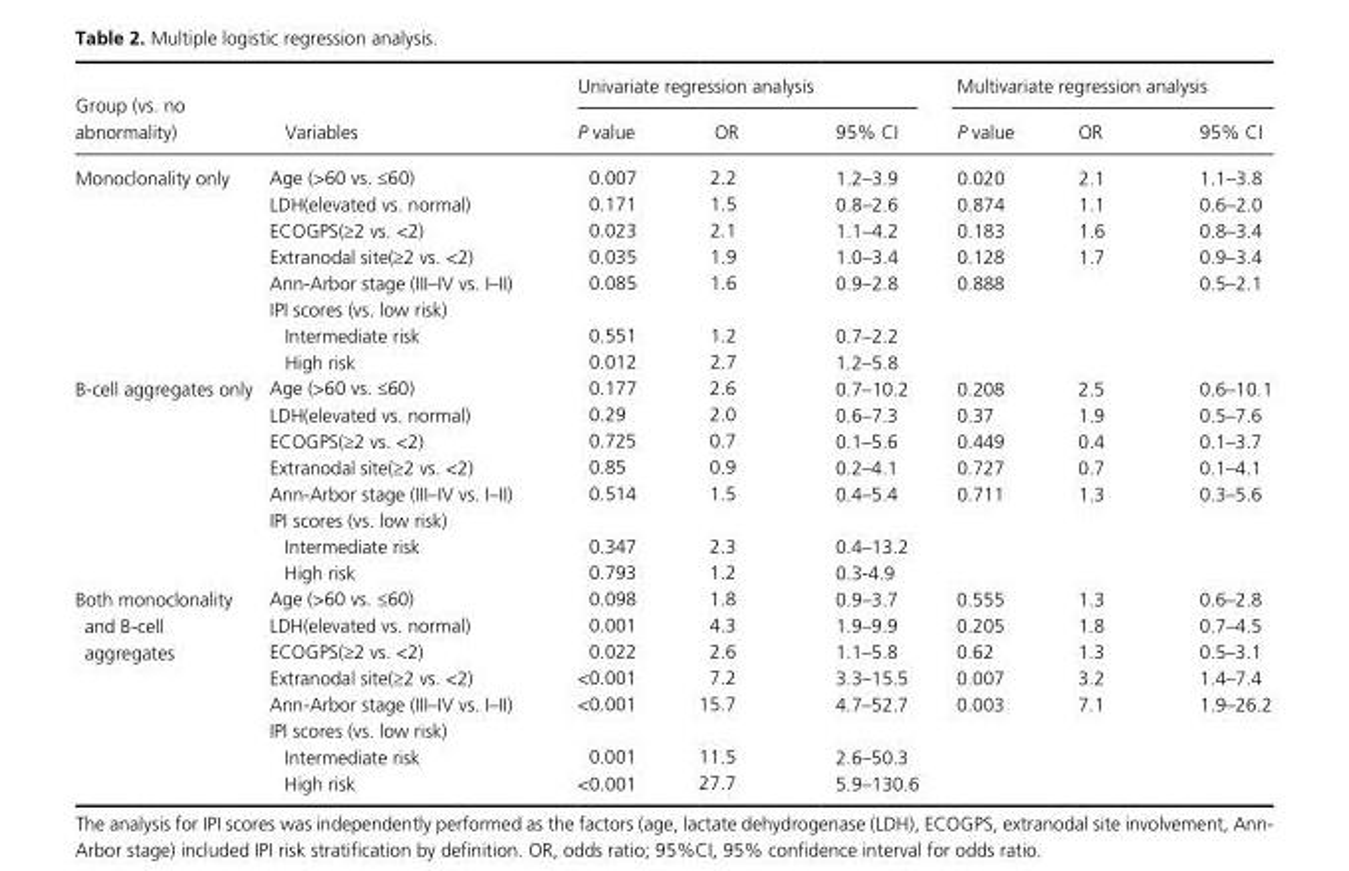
<table><thead><tr><td rowspan="2">Group (vs. no abnormality)</td><td rowspan="2">Variables</td><td colspan="3">Univariate regression analysis</td><td colspan="3">Multivariate regression analysis</td></tr><tr><td>P value</td><td>OR</td><td>95% CI</td><td>P value</td><td>OR</td><td>95% CI</td></tr></thead><tbody><tr><td rowspan="8">Monoclonality only</td><td>Age (&gt;60 vs. ≤60)</td><td>0.007</td><td>2.2</td><td>1.2–3.9</td><td>0.020</td><td>2.1</td><td>1.1–3.8</td></tr><tr><td>LDH(elevated vs. normal)</td><td>0.171</td><td>1.5</td><td>0.8–2.6</td><td>0.874</td><td>1.1</td><td>0.6–2.0</td></tr><tr><td>ECOGPS(≥2 vs. &lt;2)</td><td>0.023</td><td>2.1</td><td>1.1–4.2</td><td>0.183</td><td>1.6</td><td>0.8–3.4</td></tr><tr><td>Extranodal site(≥2 vs. &lt;2)</td><td>0.035</td><td>1.9</td><td>1.0–3.4</td><td>0.128</td><td>1.7</td><td>0.9–3.4</td></tr><tr><td>Ann- Arbor stage (III–IV vs. I–II)</td><td>0.085</td><td>1.6</td><td>0.9–2.8</td><td>0.888</td><td></td><td>0.5–2.1</td></tr><tr><td colspan="7">IPI scores (vs. low risk)</td></tr><tr><td>Intermediate risk</td><td>0.551</td><td>1.2</td><td>0.7–2.2</td><td></td><td></td><td></td></tr><tr><td>High risk</td><td>0.012</td><td>2.7</td><td>1.2–5.8</td><td></td><td></td><td></td></tr><tr><td rowspan="8">B- cell aggregates only</td><td>Age (&gt;60 vs. ≤60)</td><td>0.177</td><td>2.6</td><td>0.7–10.2</td><td>0.208</td><td>2.5</td><td>0.6–10.1</td></tr><tr><td>LDH(elevated vs. normal)</td><td>0.29</td><td>2.0</td><td>0.6–7.3</td><td>0.37</td><td>1.9</td><td>0.5–7.6</td></tr><tr><td>ECOGPS(≥2 vs. &lt;2)</td><td>0.725</td><td>0.7</td><td>0.1–5.6</td><td>0.449</td><td>0.4</td><td>0.1–3.7</td></tr><tr><td>Extranodal site(≥2 vs. &lt;2)</td><td>0.85</td><td>0.9</td><td>0.2–4.1</td><td>0.727</td><td>0.7</td><td>0.1–4.1</td></tr><tr><td>Ann- Arbor stage (III–IV vs. I–II)</td><td>0.514</td><td>1.5</td><td>0.4–5.4</td><td>0.711</td><td>1.3</td><td>0.3–5.6</td></tr><tr><td colspan="7">IPI scores (vs. low risk)</td></tr><tr><td>Intermediate risk</td><td>0.347</td><td>2.3</td><td>0.4–13.2</td><td></td><td></td><td></td></tr><tr><td>High risk</td><td>0.793</td><td>1.2</td><td>0.3- 4.9</td><td></td><td></td><td></td></tr><tr><td rowspan="8">Both monoclonality and B- cell aggregates</td><td>Age (&gt;60 vs. ≤60)</td><td>0.098</td><td>1.8</td><td>0.9–3.7</td><td>0.555</td><td>1.3</td><td>0.6–2.8</td></tr><tr><td>LDH(elevated vs. normal)</td><td>0.001</td><td>4.3</td><td>1.9–9.9</td><td>0.205</td><td>1.8</td><td>0.7–4.5</td></tr><tr><td>ECOGPS(≥2 vs. &lt;2)</td><td>0.022</td><td>2.6</td><td>1.1–5.8</td><td>0.62</td><td>1.3</td><td>0.5–3.1</td></tr><tr><td>Extranodal site(≥2 vs. &lt;2)</td><td>&lt;0.001</td><td>7.2</td><td>3.3–15.5</td><td>0.007</td><td>3.2</td><td>1.4–7.4</td></tr><tr><td>Ann- Arbor stage (III–IV vs. I–II)</td><td>&lt;0.001</td><td>15.7</td><td>4.7–52.7</td><td>0.003</td><td>7.1</td><td>1.9–26.2</td></tr><tr><td colspan="7">IPI scores (vs. low risk)</td></tr><tr><td>Intermediate risk</td><td>0.001</td><td>11.5</td><td>2.6–50.3</td><td></td><td></td><td></td></tr><tr><td>High risk</td><td>&lt;0.001</td><td>27.7</td><td>5.9–130.6</td><td></td><td></td><td></td></tr></tbody></table>